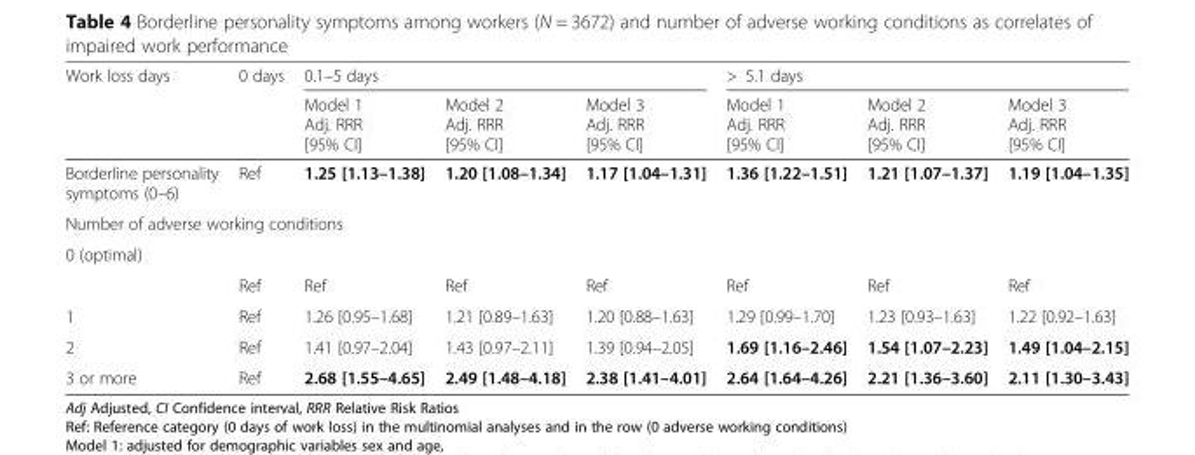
<table><thead><tr><td rowspan="2">Work loss days</td><td rowspan="2">0 days</td><td colspan="3">0.1–5 days</td><td colspan="3">&gt; 5.1 days</td></tr><tr><td>Model 1 Adj. RRR [95% CI]</td><td>Model 2 Adj. RRR [95% CI]</td><td>Model 3 Adj. RRR [95% CI]</td><td>Model 1 Adj. RRR [95% CI]</td><td>Model 2 Adj. RRR [95% CI]</td><td>Model 3 Adj. RRR [95% CI]</td></tr></thead><tbody><tr><td>Borderline personality symptoms (0–6)</td><td>Ref</td><td>1.25 [1.13–1.38]</td><td>1.20 [1.08–1.34]</td><td>1.17 [1.04–1.31]</td><td>1.36 [1.22–1.51]</td><td>1.21 [1.07–1.37]</td><td>1.19 [1.04–1.35]</td></tr><tr><td colspan="8">Number of adverse working conditions</td></tr><tr><td colspan="8">0 (optimal)</td></tr><tr><td></td><td>Ref</td><td>Ref</td><td>Ref</td><td>Ref</td><td>Ref</td><td>Ref</td><td>Ref</td></tr><tr><td>1</td><td>Ref</td><td>1.26 [0.95–1.68]</td><td>1.21 [0.89–1.63]</td><td>1.20 [0.88–1.63]</td><td>1.29 [0.99–1.70]</td><td>1.23 [0.93–1.63]</td><td>1.22 [0.92–1.63]</td></tr><tr><td>2</td><td>Ref</td><td>1.41 [0.97–2.04]</td><td>1.43 [0.97–2.11]</td><td>1.39 [0.94–2.05]</td><td>1.69 [1.16–2.46]</td><td>1.54 [1.07–2.23]</td><td>1.49 [1.04–2.15]</td></tr><tr><td>3 or more</td><td>Ref</td><td>2.68 [1.55–4.65]</td><td>2.49 [1.48–4.18]</td><td>2.38 [1.41–4.01]</td><td>2.64 [1.64–4.26]</td><td>2.21 [1.36–3.60]</td><td>2.11 [1.30–3.43]</td></tr></tbody></table>